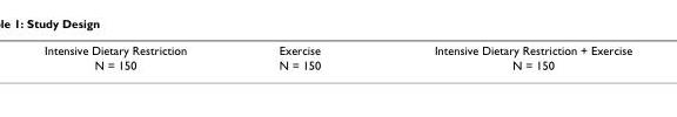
<table><tbody><tr><td>Intensive Dietary Restriction</td><td>Exercise</td><td>Intensive Dietary Restriction + Exercise</td></tr><tr><td>N = 150</td><td>N = 150</td><td>N = 150</td></tr></tbody></table>